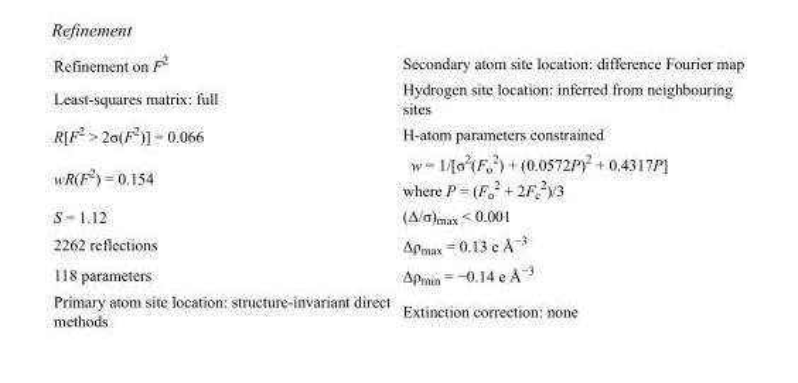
<table><tbody><tr><td>Refinement on F<sup>2</sup></td><td>Secondary atom site location: difference Fourier map</td></tr><tr><td>Least-squares matrix: full</td><td>Hydrogen site location: inferred from neighbouring sites</td></tr><tr><td>R[F<sup>2</sup> &gt; 2σ(F<sup>2</sup>)] = 0.066</td><td>H-atom parameters constrained</td></tr><tr><td>wR(F<sup>2</sup>) = 0.154</td><td>w = 1/[σ<sup>2</sup>(F<sub>o</sub> <sup>2</sup>) + (0.0572P)<sup>2</sup> + 0.4317P] where P = (F<sub>o</sub> <sup>2</sup> + 2F<sub>c</sub> <sup>2</sup>)/3</td></tr><tr><td>S = 1.12</td><td>(Δ/σ)<sub>max</sub> &lt; 0.001</td></tr><tr><td>2262 reflections</td><td>Δρ<sub>max</sub> = 0.13 e Å<sup>−3</sup></td></tr><tr><td>118 parameters</td><td>Δρ<sub>min</sub> = −0.14 e Å<sup>−3</sup></td></tr><tr><td>Primary atom site location: structure-invariant direct methods</td><td>Extinction correction: none</td></tr></tbody></table>